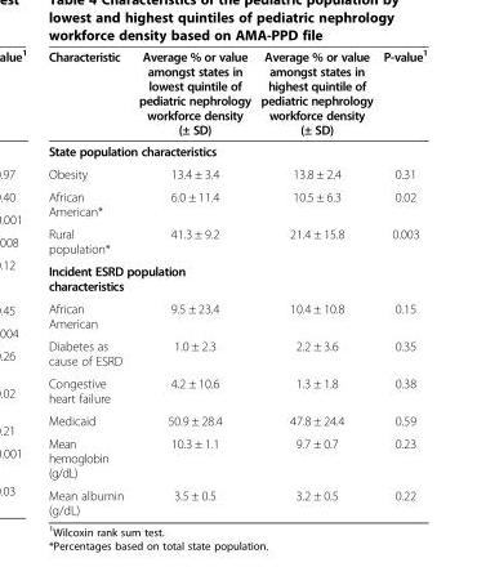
<table><thead><tr><td>Characteristic</td><td>Average % or value amongst states in lowest quintile of pediatric nephrology workforce density (± SD)</td><td>Average % or value amongst states in highest quintile of pediatric nephrology workforce density (± SD)</td><td>P-value<sup>1</sup></td></tr></thead><tbody><tr><td colspan="4">State population characteristics</td></tr><tr><td>Obesity</td><td>13.4 ± 3.4</td><td>13.8 ± 2.4</td><td>0.31</td></tr><tr><td>African American*</td><td>6.0 ± 11.4</td><td>10.5 ± 6.3</td><td>0.02</td></tr><tr><td>Rural population*</td><td>41.3 ± 9.2</td><td>21.4 ± 15.8</td><td>0.003</td></tr><tr><td colspan="4">Incident ESRD population characteristics</td></tr><tr><td>African American</td><td>9.5 ± 23.4</td><td>10.4 ± 10.8</td><td>0.15</td></tr><tr><td>Diabetes as cause of ESRD</td><td>1.0 ± 2.3</td><td>2.2 ± 3.6</td><td>0.35</td></tr><tr><td>Congestive heart failure</td><td>4.2 ± 10.6</td><td>1.3 ± 1.8</td><td>0.38</td></tr><tr><td>Medicaid</td><td>50.9 ± 28.4</td><td>47.8 ± 24.4</td><td>0.59</td></tr><tr><td>Mean hemoglobin (g/dL)</td><td>10.3 ± 1.1</td><td>9.7 ± 0.7</td><td>0.23</td></tr><tr><td>Mean albumin (g/dL)</td><td>3.5 ± 0.5</td><td>3.2 ± 0.5</td><td>0.22</td></tr></tbody></table>